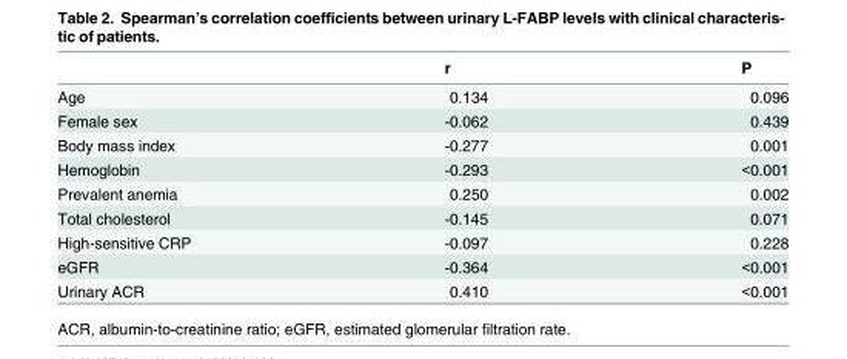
<table><thead><tr><td></td><td>r</td><td>P</td></tr></thead><tbody><tr><td>Age</td><td>0.134</td><td>0.096</td></tr><tr><td>Female sex</td><td>-0.062</td><td>0.439</td></tr><tr><td>Body mass index</td><td>-0.277</td><td>0.001</td></tr><tr><td>Hemoglobin</td><td>-0.293</td><td>&lt;0.001</td></tr><tr><td>Prevalent anemia</td><td>0.250</td><td>0.002</td></tr><tr><td>Total cholesterol</td><td>-0.145</td><td>0.071</td></tr><tr><td>High-sensitive CRP</td><td>-0.097</td><td>0.228</td></tr><tr><td>eGFR</td><td>-0.364</td><td>&lt;0.001</td></tr><tr><td>Urinary ACR</td><td>0.410</td><td>&lt;0.001</td></tr></tbody></table>